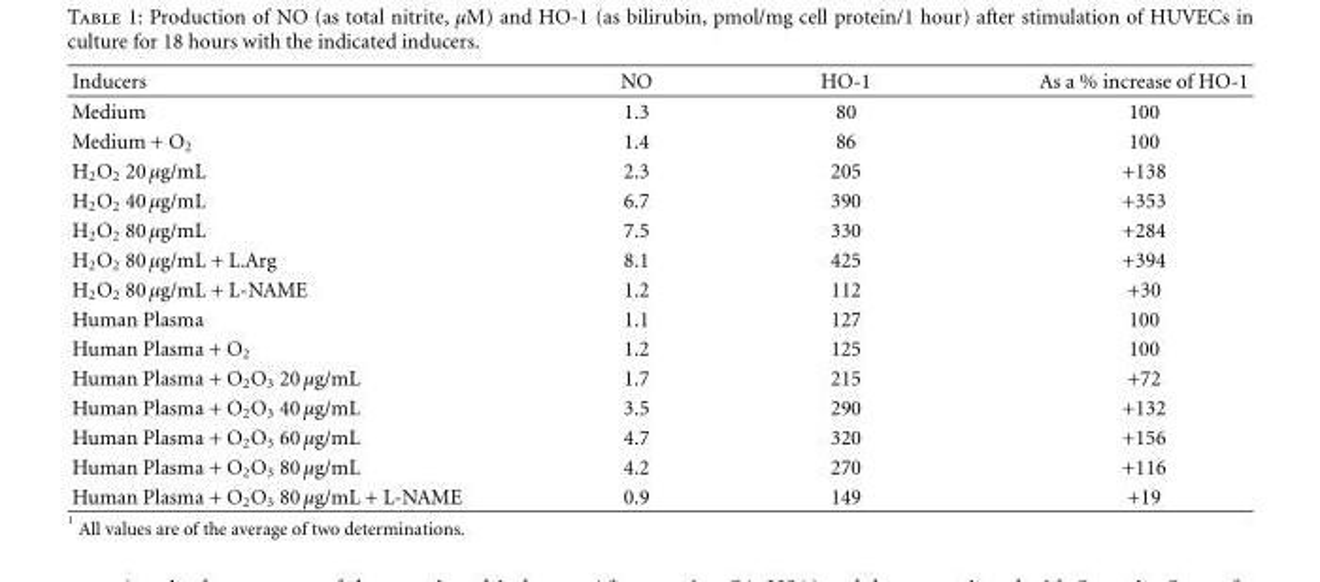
<table><thead><tr><td>Inducers</td><td>NO</td><td>HO-1</td><td>As a % increase of HO-1</td></tr></thead><tbody><tr><td>Medium</td><td>1.3</td><td>80</td><td>100</td></tr><tr><td>Medium + O<sub>2</sub></td><td>1.4</td><td>86</td><td>100</td></tr><tr><td>H<sub>2</sub>O<sub>2</sub> 20 μg/mL</td><td>2.3</td><td>205</td><td>+138</td></tr><tr><td>H<sub>2</sub>O<sub>2</sub> 40 μg/mL</td><td>6.7</td><td>390</td><td>+353</td></tr><tr><td>H<sub>2</sub>O<sub>2</sub> 80 μg/mL</td><td>7.5</td><td>330</td><td>+284</td></tr><tr><td>H<sub>2</sub>O<sub>2</sub> 80 μg/mL + L.Arg</td><td>8.1</td><td>425</td><td>+394</td></tr><tr><td>H<sub>2</sub>O<sub>2</sub> 80 μg/mL + L-NAME</td><td>1.2</td><td>112</td><td>+30</td></tr><tr><td>Human Plasma</td><td>1.1</td><td>127</td><td>100</td></tr><tr><td>Human Plasma + O<sub>2</sub></td><td>1.2</td><td>125</td><td>100</td></tr><tr><td>Human Plasma + O<sub>2</sub>O<sub>3</sub> 20 μg/mL</td><td>1.7</td><td>215</td><td>+72</td></tr><tr><td>Human Plasma + O<sub>2</sub>O<sub>3</sub> 40 μg/mL</td><td>3.5</td><td>290</td><td>+132</td></tr><tr><td>Human Plasma + O<sub>2</sub>O<sub>3</sub> 60 μg/mL</td><td>4.7</td><td>320</td><td>+156</td></tr><tr><td>Human Plasma + O<sub>2</sub>O<sub>3</sub> 80 μg/mL</td><td>4.2</td><td>270</td><td>+116</td></tr><tr><td>Human Plasma + O<sub>2</sub>O<sub>3</sub> 80 μg/mL + L-NAME</td><td>0.9</td><td>149</td><td>+19</td></tr></tbody></table>